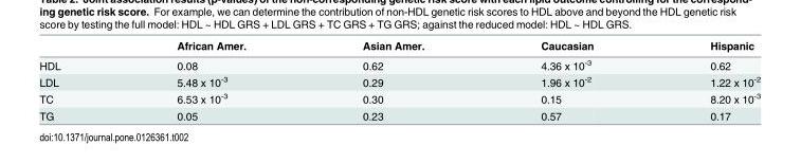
<table><thead><tr><td></td><td>African Amer.</td><td>Asian Amer.</td><td>Caucasian</td><td>Hispanic</td></tr></thead><tbody><tr><td>HDL</td><td>0.08</td><td>0.62</td><td>4.36 x 10<sup>-3</sup></td><td>0.62</td></tr><tr><td>LDL</td><td>5.48 x 10<sup>-3</sup></td><td>0.29</td><td>1.96 x 10<sup>-2</sup></td><td>1.22 x 10<sup>-2</sup></td></tr><tr><td>TC</td><td>6.53 x 10<sup>-3</sup></td><td>0.30</td><td>0.15</td><td>8.20 x 10<sup>-3</sup></td></tr><tr><td>TG</td><td>0.05</td><td>0.23</td><td>0.57</td><td>0.17</td></tr></tbody></table>